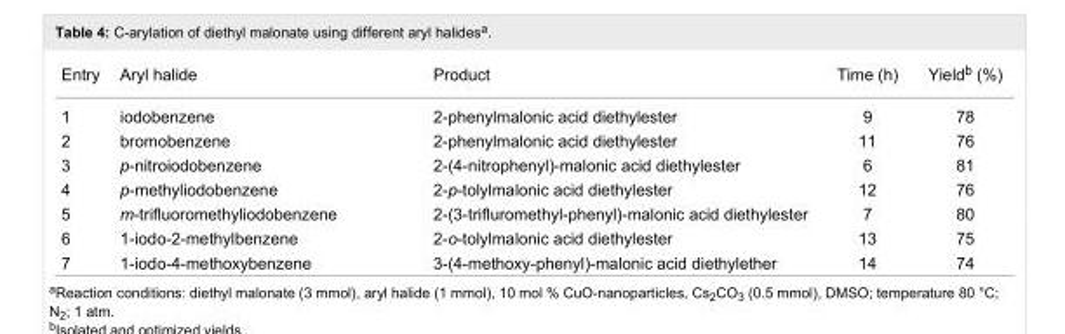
<table><tbody><tr><td>Entry</td><td>Aryl halide</td><td>Product</td><td>Time (h)</td><td>Yield<sup>b</sup> (%)</td></tr><tr><td>1</td><td>iodobenzene</td><td>2-phenylmalonic acid diethylester</td><td>9</td><td>78</td></tr><tr><td>2</td><td>bromobenzene</td><td>2-phenylmalonic acid diethylester</td><td>11</td><td>76</td></tr><tr><td>3</td><td>p-nitroiodobenzene</td><td>2-(4-nitrophenyl)-malonic acid diethylester</td><td>6</td><td>81</td></tr><tr><td>4</td><td>p-methyliodobenzene</td><td>2-p-tolylmalonic acid diethylester</td><td>12</td><td>76</td></tr><tr><td>5</td><td>m-trifluoromethyliodobenzene</td><td>2-(3-trifluromethyl-phenyl)-malonic acid diethylester</td><td>7</td><td>80</td></tr><tr><td>6</td><td>1-iodo-2-methylbenzene</td><td>2-o-tolylmalonic acid diethylester</td><td>13</td><td>75</td></tr><tr><td>7</td><td>1-iodo-4-methoxybenzene</td><td>3-(4-methoxy-phenyl)-malonic acid diethylether</td><td>14</td><td>74</td></tr></tbody></table>